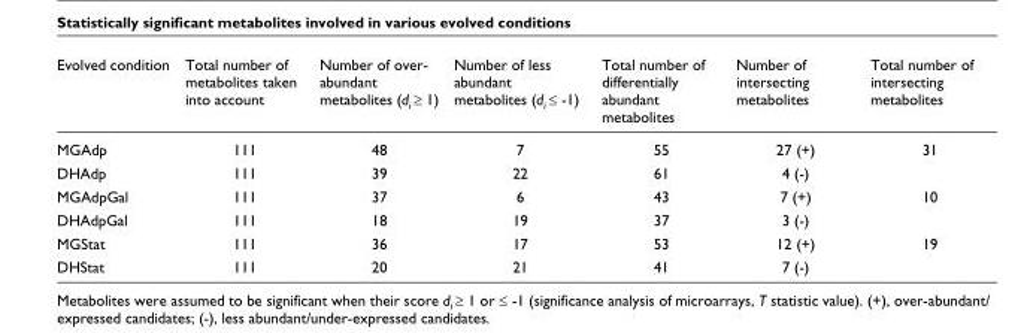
<table><thead><tr><td>Evolved condition</td><td>Total number of metabolites taken into account</td><td>Number of over- abundant metabolites (d<sub>i</sub> ≥ 1)</td><td>Number of less abundant metabolites (d<sub>i</sub> ≤ -1)</td><td>Total number of differentially abundant metabolites</td><td>Number of intersecting metabolites</td><td>Total number of intersecting metabolites</td></tr></thead><tbody><tr><td>MGAdp</td><td>111</td><td>48</td><td>7</td><td>55</td><td>27 (+)</td><td>31</td></tr><tr><td>DHAdp</td><td>111</td><td>39</td><td>22</td><td>61</td><td>4 (-)</td><td></td></tr><tr><td>MGAdpGal</td><td>111</td><td>37</td><td>6</td><td>43</td><td>7 (+)</td><td>10</td></tr><tr><td>DHAdpGal</td><td>111</td><td>18</td><td>19</td><td>37</td><td>3 (-)</td><td></td></tr><tr><td>MGStat</td><td>111</td><td>36</td><td>17</td><td>53</td><td>12 (+)</td><td>19</td></tr><tr><td>DHStat</td><td>111</td><td>20</td><td>21</td><td>41</td><td>7 (-)</td><td></td></tr></tbody></table>